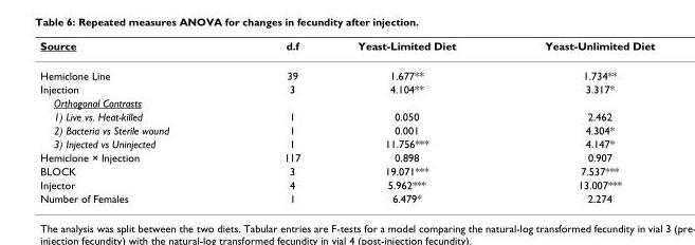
<table><thead><tr><td>Source</td><td>d.f</td><td>Yeast-Limited Diet</td><td>Yeast-Unlimited Diet</td></tr></thead><tbody><tr><td>Hemiclone Line</td><td>39</td><td>1.677**</td><td>1.734**</td></tr><tr><td>Injection</td><td>3</td><td>4.104**</td><td>3.317*</td></tr><tr><td colspan="4">Orthogonal Contrasts</td></tr><tr><td>1) Live vs. Heat-killed</td><td>1</td><td>0.050</td><td>2.462</td></tr><tr><td>2) Bacteria vs Sterile wound</td><td>1</td><td>0.001</td><td>4.304*</td></tr><tr><td>3) Injected vs Uninjected</td><td>1</td><td>11.756***</td><td>4.147*</td></tr><tr><td>Hemiclone × Injection</td><td>117</td><td>0.898</td><td>0.907</td></tr><tr><td>BLOCK</td><td>3</td><td>19.071***</td><td>7.537***</td></tr><tr><td>Injector</td><td>4</td><td>5.962***</td><td>13.007***</td></tr><tr><td>Number of Females</td><td>1</td><td>6.479*</td><td>2.274</td></tr></tbody></table>